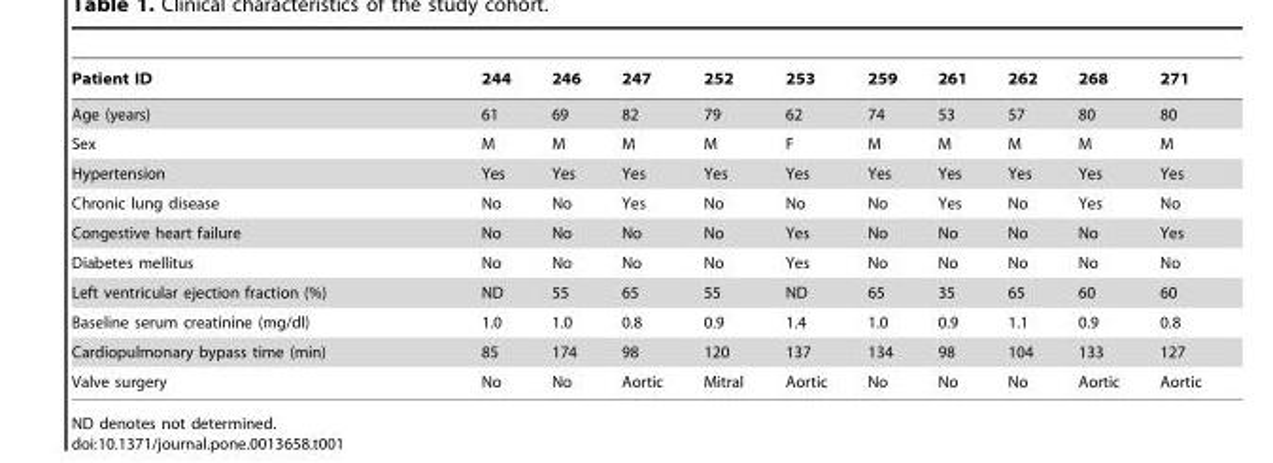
<table><thead><tr><td>Patient ID</td><td>244</td><td>246</td><td>247</td><td>252</td><td>253</td><td>259</td><td>261</td><td>262</td><td>268</td><td>271</td></tr></thead><tbody><tr><td>Age (years)</td><td>61</td><td>69</td><td>82</td><td>79</td><td>62</td><td>74</td><td>53</td><td>57</td><td>80</td><td>80</td></tr><tr><td>Sex</td><td>M</td><td>M</td><td>M</td><td>M</td><td>F</td><td>M</td><td>M</td><td>M</td><td>M</td><td>M</td></tr><tr><td>Hypertension</td><td>Yes</td><td>Yes</td><td>Yes</td><td>Yes</td><td>Yes</td><td>Yes</td><td>Yes</td><td>Yes</td><td>Yes</td><td>Yes</td></tr><tr><td>Chronic lung disease</td><td>No</td><td>No</td><td>Yes</td><td>No</td><td>No</td><td>No</td><td>Yes</td><td>No</td><td>Yes</td><td>No</td></tr><tr><td>Congestive heart failure</td><td>No</td><td>No</td><td>No</td><td>No</td><td>Yes</td><td>No</td><td>No</td><td>No</td><td>No</td><td>Yes</td></tr><tr><td>Diabetes mellitus</td><td>No</td><td>No</td><td>No</td><td>No</td><td>Yes</td><td>No</td><td>No</td><td>No</td><td>No</td><td>No</td></tr><tr><td>Left ventricular ejection fraction (%)</td><td>ND</td><td>55</td><td>65</td><td>55</td><td>ND</td><td>65</td><td>35</td><td>65</td><td>60</td><td>60</td></tr><tr><td>Baseline serum creatinine (mg/dl)</td><td>1.0</td><td>1.0</td><td>0.8</td><td>0.9</td><td>1.4</td><td>1.0</td><td>0.9</td><td>1.1</td><td>0.9</td><td>0.8</td></tr><tr><td>Cardiopulmonary bypass time (min)</td><td>85</td><td>174</td><td>98</td><td>120</td><td>137</td><td>134</td><td>98</td><td>104</td><td>133</td><td>127</td></tr><tr><td>Valve surgery</td><td>No</td><td>No</td><td>Aortic</td><td>Mitral</td><td>Aortic</td><td>No</td><td>No</td><td>No</td><td>Aortic</td><td>Aortic</td></tr></tbody></table>